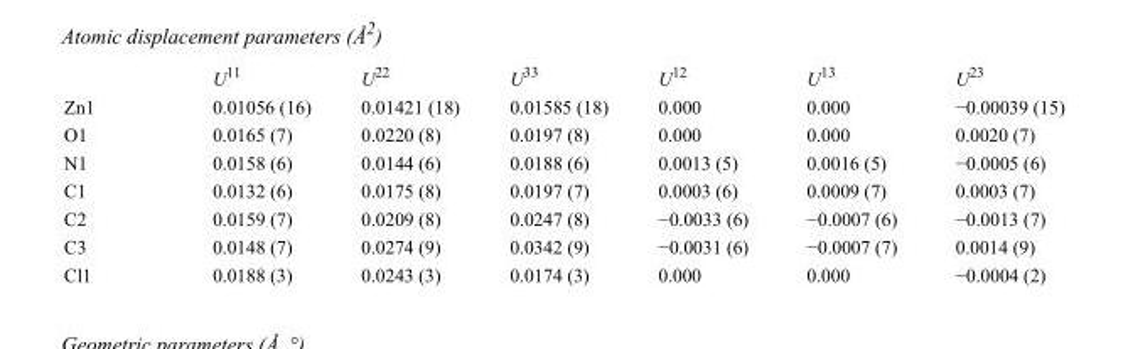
<table><thead><tr><td></td><td>U<sup>11</sup></td><td>U<sup>22</sup></td><td>U<sup>33</sup></td><td>U<sup>12</sup></td><td>U<sup>13</sup></td><td>U<sup>23</sup></td></tr></thead><tbody><tr><td>Zn1</td><td>0.01056 (16)</td><td>0.01421 (18)</td><td>0.01585 (18)</td><td>0.000</td><td>0.000</td><td>−0.00039 (15)</td></tr><tr><td>O1</td><td>0.0165 (7)</td><td>0.0220 (8)</td><td>0.0197 (8)</td><td>0.000</td><td>0.000</td><td>0.0020 (7)</td></tr><tr><td>N1</td><td>0.0158 (6)</td><td>0.0144 (6)</td><td>0.0188 (6)</td><td>0.0013 (5)</td><td>0.0016 (5)</td><td>−0.0005 (6)</td></tr><tr><td>C1</td><td>0.0132 (6)</td><td>0.0175 (8)</td><td>0.0197 (7)</td><td>0.0003 (6)</td><td>0.0009 (7)</td><td>0.0003 (7)</td></tr><tr><td>C2</td><td>0.0159 (7)</td><td>0.0209 (8)</td><td>0.0247 (8)</td><td>−0.0033 (6)</td><td>−0.0007 (6)</td><td>−0.0013 (7)</td></tr><tr><td>C3</td><td>0.0148 (7)</td><td>0.0274 (9)</td><td>0.0342 (9)</td><td>−0.0031 (6)</td><td>−0.0007 (7)</td><td>0.0014 (9)</td></tr><tr><td>Cl1</td><td>0.0188 (3)</td><td>0.0243 (3)</td><td>0.0174 (3)</td><td>0.000</td><td>0.000</td><td>−0.0004 (2)</td></tr></tbody></table>